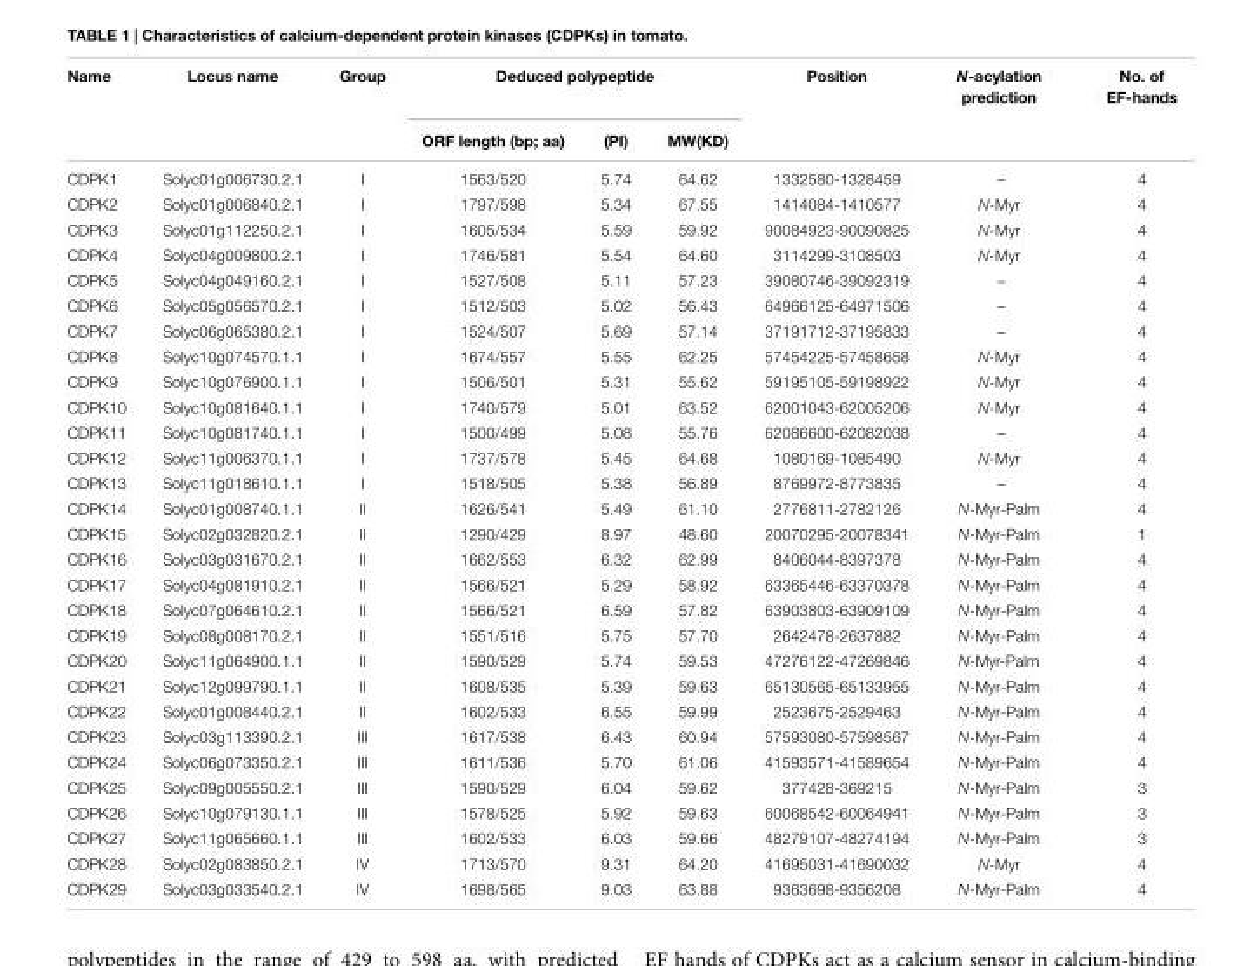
<table><thead><tr><td rowspan="2">Name</td><td rowspan="2">Locus name</td><td rowspan="2">Group</td><td colspan="3">Deduced polypeptide</td><td rowspan="2">Position</td><td rowspan="2">N-acylation prediction</td><td rowspan="2">No. of EF-hands</td></tr><tr><td>ORF length (bp; aa)</td><td>(PI)</td><td>MW(KD)</td></tr></thead><tbody><tr><td>CDPK1</td><td>Solyc01g006730.2.1</td><td>I</td><td>1563/520</td><td>5.74</td><td>64.62</td><td>1332580-1328459</td><td>–</td><td>4</td></tr><tr><td>CDPK2</td><td>Solyc01g006840.2.1</td><td>I</td><td>1797/598</td><td>5.34</td><td>67.55</td><td>1414084-1410577</td><td>N-Myr</td><td>4</td></tr><tr><td>CDPK3</td><td>Solyc01g112250.2.1</td><td>I</td><td>1605/534</td><td>5.59</td><td>59.92</td><td>90084923-90090825</td><td>N-Myr</td><td>4</td></tr><tr><td>CDPK4</td><td>Solyc04g009800.2.1</td><td>I</td><td>1746/581</td><td>5.54</td><td>64.60</td><td>3114299-3108503</td><td>N-Myr</td><td>4</td></tr><tr><td>CDPK5</td><td>Solyc04g049160.2.1</td><td>I</td><td>1527/508</td><td>5.11</td><td>57.23</td><td>39080746-39092319</td><td>–</td><td>4</td></tr><tr><td>CDPK6</td><td>Solyc05g056570.2.1</td><td>I</td><td>1512/503</td><td>5.02</td><td>56.43</td><td>64966125-64971506</td><td>–</td><td>4</td></tr><tr><td>CDPK7</td><td>Solyc06g065380.2.1</td><td>I</td><td>1524/507</td><td>5.69</td><td>57.14</td><td>37191712-37195833</td><td>–</td><td>4</td></tr><tr><td>CDPK8</td><td>Solyc10g074570.1.1</td><td>I</td><td>1674/557</td><td>5.55</td><td>62.25</td><td>57454225-57458658</td><td>N-Myr</td><td>4</td></tr><tr><td>CDPK9</td><td>Solyc10g076900.1.1</td><td>I</td><td>1506/501</td><td>5.31</td><td>55.62</td><td>59195105-59198922</td><td>N-Myr</td><td>4</td></tr><tr><td>CDPK10</td><td>Solyc10g081640.1.1</td><td>I</td><td>1740/579</td><td>5.01</td><td>63.52</td><td>62001043-62005206</td><td>N-Myr</td><td>4</td></tr><tr><td>CDPK11</td><td>Solyc10g081740.1.1</td><td>I</td><td>1500/499</td><td>5.08</td><td>55.76</td><td>62086600-62082038</td><td>–</td><td>4</td></tr><tr><td>CDPK12</td><td>Solyc11g006370.1.1</td><td>I</td><td>1737/578</td><td>5.45</td><td>64.68</td><td>1080169-1085490</td><td>N-Myr</td><td>4</td></tr><tr><td>CDPK13</td><td>Solyc11g018610.1.1</td><td>I</td><td>1518/505</td><td>5.38</td><td>56.89</td><td>8769972-8773835</td><td>–</td><td>4</td></tr><tr><td>CDPK14</td><td>Solyc01g008740.1.1</td><td>II</td><td>1626/541</td><td>5.49</td><td>61.10</td><td>2776811-2782126</td><td>N-Myr-Palm</td><td>4</td></tr><tr><td>CDPK15</td><td>Solyc02g032820.2.1</td><td>II</td><td>1290/429</td><td>8.97</td><td>48.60</td><td>20070295-20078341</td><td>N-Myr-Palm</td><td>1</td></tr><tr><td>CDPK16</td><td>Solyc03g031670.2.1</td><td>II</td><td>1662/553</td><td>6.32</td><td>62.99</td><td>8406044-8397378</td><td>N-Myr-Palm</td><td>4</td></tr><tr><td>CDPK17</td><td>Solyc04g081910.2.1</td><td>II</td><td>1566/521</td><td>5.29</td><td>58.92</td><td>63365446-63370378</td><td>N-Myr-Palm</td><td>4</td></tr><tr><td>CDPK18</td><td>Solyc07g064610.2.1</td><td>II</td><td>1566/521</td><td>6.59</td><td>57.82</td><td>63903803-63909109</td><td>N-Myr-Palm</td><td>4</td></tr><tr><td>CDPK19</td><td>Solyc08g008170.2.1</td><td>II</td><td>1551/516</td><td>5.75</td><td>57.70</td><td>2642478-2637882</td><td>N-Myr-Palm</td><td>4</td></tr><tr><td>CDPK20</td><td>Solyc11g064900.1.1</td><td>II</td><td>1590/529</td><td>5.74</td><td>59.53</td><td>47276122-47269846</td><td>N-Myr-Palm</td><td>4</td></tr><tr><td>CDPK21</td><td>Solyc12g099790.1.1</td><td>II</td><td>1608/535</td><td>5.39</td><td>59.63</td><td>65130565-65133955</td><td>N-Myr-Palm</td><td>4</td></tr><tr><td>CDPK22</td><td>Solyc01g008440.2.1</td><td>II</td><td>1602/533</td><td>6.55</td><td>59.99</td><td>2523675-2529463</td><td>N-Myr-Palm</td><td>4</td></tr><tr><td>CDPK23</td><td>Solyc03g113390.2.1</td><td>III</td><td>1617/538</td><td>6.43</td><td>60.94</td><td>57593080-57598567</td><td>N-Myr-Palm</td><td>4</td></tr><tr><td>CDPK24</td><td>Solyc06g073350.2.1</td><td>III</td><td>1611/536</td><td>5.70</td><td>61.06</td><td>41593571-41589654</td><td>N-Myr-Palm</td><td>4</td></tr><tr><td>CDPK25</td><td>Solyc09g005550.2.1</td><td>III</td><td>1590/529</td><td>6.04</td><td>59.62</td><td>377428-369215</td><td>N-Myr-Palm</td><td>3</td></tr><tr><td>CDPK26</td><td>Solyc10g079130.1.1</td><td>III</td><td>1578/525</td><td>5.92</td><td>59.63</td><td>60068542-60064941</td><td>N-Myr-Palm</td><td>3</td></tr><tr><td>CDPK27</td><td>Solyc11g065660.1.1</td><td>III</td><td>1602/533</td><td>6.03</td><td>59.66</td><td>48279107-48274194</td><td>N-Myr-Palm</td><td>3</td></tr><tr><td>CDPK28</td><td>Solyc02g083850.2.1</td><td>IV</td><td>1713/570</td><td>9.31</td><td>64.20</td><td>41695031-41690032</td><td>N-Myr</td><td>4</td></tr><tr><td>CDPK29</td><td>Solyc03g033540.2.1</td><td>IV</td><td>1698/565</td><td>9.03</td><td>63.88</td><td>9363698-9356208</td><td>N-Myr-Palm</td><td>4</td></tr></tbody></table>